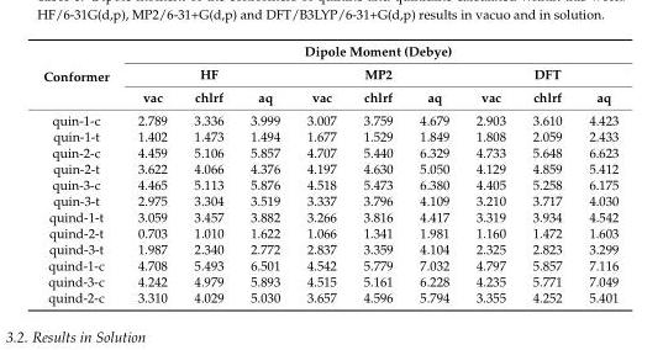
<table><thead><tr><td rowspan="3">Conformer</td><td colspan="9">Dipole Moment (Debye)</td></tr><tr><td colspan="3">HF</td><td colspan="3">MP2</td><td colspan="3">DFT</td></tr><tr><td>vac</td><td>chlrf</td><td>aq</td><td>vac</td><td>chlrf</td><td>aq</td><td>vac</td><td>chlrf</td><td>aq</td></tr></thead><tbody><tr><td>quin-1-c</td><td>2.789</td><td>3.336</td><td>3.999</td><td>3.007</td><td>3.759</td><td>4.679</td><td>2.903</td><td>3.610</td><td>4.423</td></tr><tr><td>quin-1-t</td><td>1.402</td><td>1.473</td><td>1.494</td><td>1.677</td><td>1.529</td><td>1.849</td><td>1.808</td><td>2.059</td><td>2.433</td></tr><tr><td>quin-2-c</td><td>4.459</td><td>5.106</td><td>5.857</td><td>4.707</td><td>5.440</td><td>6.329</td><td>4.733</td><td>5.648</td><td>6.623</td></tr><tr><td>quin-2-t</td><td>3.622</td><td>4.066</td><td>4.376</td><td>4.197</td><td>4.630</td><td>5.050</td><td>4.129</td><td>4.859</td><td>5.412</td></tr><tr><td>quin-3-c</td><td>4.465</td><td>5.113</td><td>5.876</td><td>4.518</td><td>5.473</td><td>6.380</td><td>4.405</td><td>5.258</td><td>6.175</td></tr><tr><td>quin-3-t</td><td>2.975</td><td>3.304</td><td>3.519</td><td>3.337</td><td>3.796</td><td>4.109</td><td>3.210</td><td>3.717</td><td>4.030</td></tr><tr><td>quind-1-t</td><td>3.059</td><td>3.457</td><td>3.882</td><td>3.266</td><td>3.816</td><td>4.417</td><td>3.319</td><td>3.934</td><td>4.542</td></tr><tr><td>quind-2-t</td><td>0.703</td><td>1.010</td><td>1.622</td><td>1.066</td><td>1.341</td><td>1.981</td><td>1.160</td><td>1.472</td><td>1.603</td></tr><tr><td>quind-3-t</td><td>1.987</td><td>2.340</td><td>2.772</td><td>2.837</td><td>3.359</td><td>4.104</td><td>2.325</td><td>2.823</td><td>3.299</td></tr><tr><td>quind-1-c</td><td>4.708</td><td>5.493</td><td>6.501</td><td>4.542</td><td>5.779</td><td>7.032</td><td>4.797</td><td>5.857</td><td>7.116</td></tr><tr><td>quind-3-c</td><td>4.242</td><td>4.979</td><td>5.893</td><td>4.515</td><td>5.161</td><td>6.228</td><td>4.235</td><td>5.771</td><td>7.049</td></tr><tr><td>quind-2-c</td><td>3.310</td><td>4.029</td><td>5.030</td><td>3.657</td><td>4.596</td><td>5.794</td><td>3.355</td><td>4.252</td><td>5.401</td></tr></tbody></table>